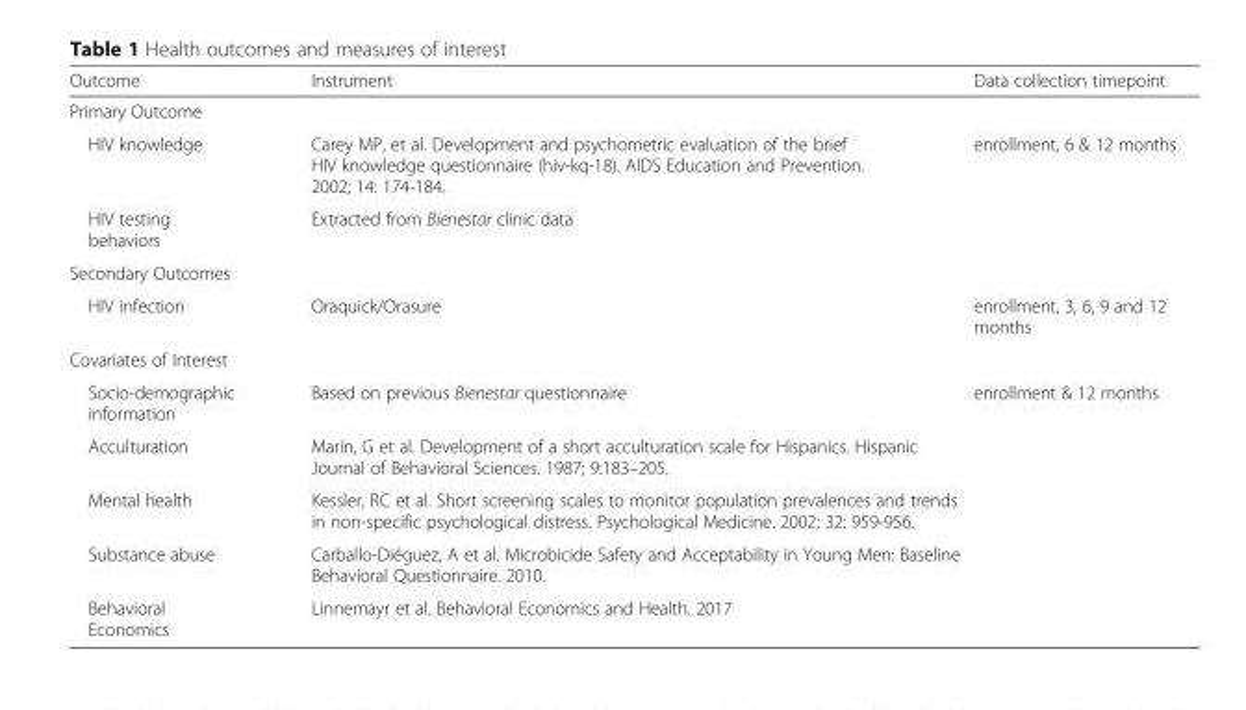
<table><thead><tr><td>Outcome</td><td>Instrument</td><td>Data collection timepoint</td></tr></thead><tbody><tr><td colspan="3">Primary Outcome</td></tr><tr><td>HIV knowledge</td><td>Carey MP, et al. Development and psychometric evaluation of the brief HIV knowledge questionnaire (hiv-kq-18). AIDS Education and Prevention. 2002; 14: 174-184.</td><td rowspan="2">enrollment, 6 &amp; 12 months</td></tr><tr><td>HIV testing behaviors</td><td>Extracted from Bienestar clinic data</td></tr><tr><td colspan="3">Secondary Outcomes</td></tr><tr><td>HIV infection</td><td>Oraquick/Orasure</td><td>enrollment, 3, 6, 9 and 12 months</td></tr><tr><td colspan="3">Covariates of Interest</td></tr><tr><td>Socio-demographic information</td><td>Based on previous Bienestar questionnaire</td><td rowspan="5">enrollment &amp; 12 months</td></tr><tr><td>Acculturation</td><td>Marín, G et al. Development of a short acculturation scale for Hispanics. Hispanic Journal of Behavioral Sciences. 1987; 9:183–205.</td></tr><tr><td>Mental health</td><td>Kessler, RC et al. Short screening scales to monitor population prevalences and trends in non-specific psychological distress. Psychological Medicine. 2002; 32: 959-956.</td></tr><tr><td>Substance abuse</td><td>Carballo-Diéguez, A et al. Microbicide Safety and Acceptability in Young Men: Baseline Behavioral Questionnaire. 2010.</td></tr><tr><td>Behavioral Economics</td><td>Linnemayr et al. Behavioral Economics and Health. 2017</td></tr></tbody></table>